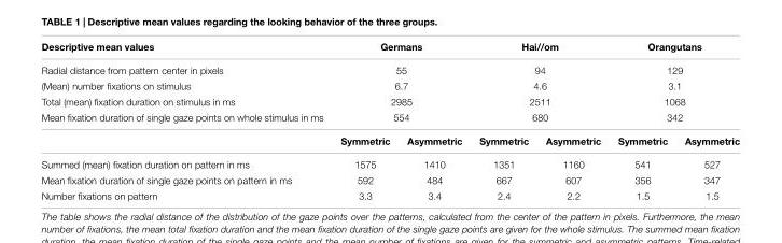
<table><thead><tr><td>Descriptive mean values</td><td colspan="2">Germans</td><td colspan="2">Hai//om</td><td colspan="2">Orangutans</td></tr></thead><tbody><tr><td>Radial distance from pattern center in pixels</td><td colspan="2">55</td><td colspan="2">94</td><td colspan="2">129</td></tr><tr><td>(Mean) number fixations on stimulus</td><td colspan="2">6.7</td><td colspan="2">4.6</td><td colspan="2">3.1</td></tr><tr><td>Total (mean) fixation duration on stimulus in ms</td><td colspan="2">2985</td><td colspan="2">2511</td><td colspan="2">1068</td></tr><tr><td rowspan="2">Mean fixation duration of single gaze points on whole stimulus in ms</td><td colspan="2">554</td><td colspan="2">680</td><td colspan="2">342</td></tr><tr><td>Symmetric</td><td>Asymmetric</td><td>Symmetric</td><td>Asymmetric</td><td>Symmetric</td><td>Asymmetric</td></tr><tr><td>Summed (mean) fixation duration on pattern in ms</td><td>1575</td><td>1410</td><td>1351</td><td>1160</td><td>541</td><td>527</td></tr><tr><td>Mean fixation duration of single gaze points on pattern in ms</td><td>592</td><td>484</td><td>667</td><td>607</td><td>356</td><td>347</td></tr><tr><td>Number fixations on pattern</td><td>3.3</td><td>3.4</td><td>2.4</td><td>2.2</td><td>1.5</td><td>1.5</td></tr></tbody></table>